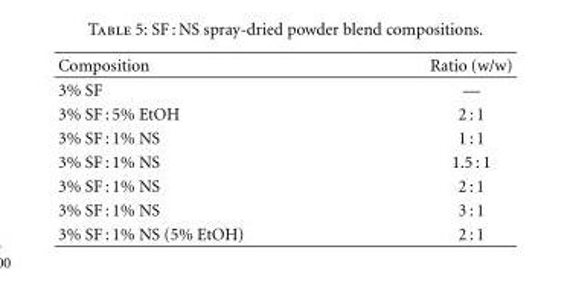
<table><thead><tr><td>Composition</td><td>Ratio (w/w)</td></tr></thead><tbody><tr><td>3% SF</td><td>—</td></tr><tr><td>3% SF : 5% EtOH</td><td>2 : 1</td></tr><tr><td>3% SF : 1% NS</td><td>1 : 1</td></tr><tr><td>3% SF : 1% NS</td><td>1.5 : 1</td></tr><tr><td>3% SF : 1% NS</td><td>2 : 1</td></tr><tr><td>3% SF : 1% NS</td><td>3 : 1</td></tr><tr><td>3% SF : 1% NS (5% EtOH)</td><td>2 : 1</td></tr></tbody></table>